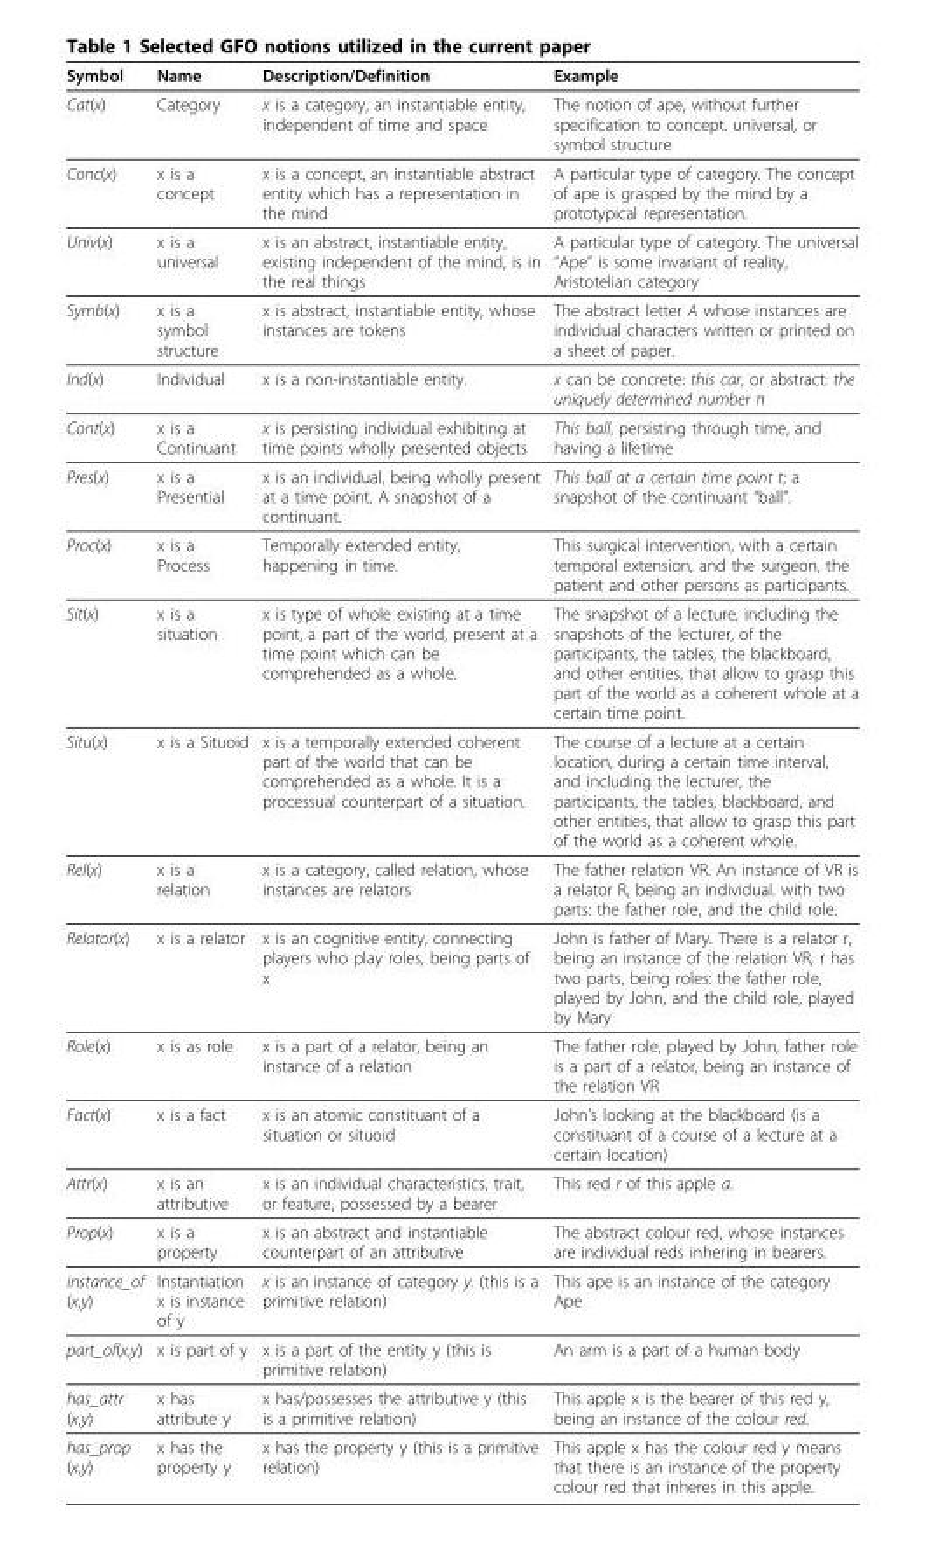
<table><thead><tr><td>Symbol</td><td>Name</td><td>Description/Definition</td><td>Example</td></tr></thead><tbody><tr><td>Cat(x)</td><td>Category</td><td>x is a category, an instantiable entity, independent of time and space</td><td>The notion of ape, without further specification to concept. universal, or symbol structure</td></tr><tr><td>Conc(x)</td><td>x is a concept</td><td>x is a concept, an instantiable abstract entity which has a representation in the mind</td><td>A particular type of category. The concept of ape is grasped by the mind by a prototypical representation.</td></tr><tr><td>Univ(x)</td><td>x is a universal</td><td>x is an abstract, instantiable entity, existing independent of the mind, is in the real things</td><td>A particular type of category. The universal “Ape” is some invariant of reality, Aristotelian category</td></tr><tr><td>Symb(x)</td><td>x is a symbol structure</td><td>x is abstract, instantiable entity, whose instances are tokens</td><td>The abstract letter A whose instances are individual characters written or printed on a sheet of paper.</td></tr><tr><td>Ind(x)</td><td>Individual</td><td>x is a non-instantiable entity.</td><td>x can be concrete: this car, or abstract: the uniquely determined number π</td></tr><tr><td>Cont(x)</td><td>x is a Continuant</td><td>x is persisting individual exhibiting at time points wholly presented objects</td><td>This ball, persisting through time, and having a lifetime</td></tr><tr><td>Pres(x)</td><td>x is a Presential</td><td>x is an individual, being wholly present at a time point. A snapshot of a continuant.</td><td>This ball at a certain time point t; a snapshot of the continuant “ball”.</td></tr><tr><td>Proc(x)</td><td>x is a Process</td><td>Temporally extended entity, happening in time.</td><td>This surgical intervention, with a certain temporal extension, and the surgeon, the patient and other persons as participants.</td></tr><tr><td>Sit(x)</td><td>x is a situation</td><td>x is type of whole existing at a time point, a part of the world, present at a time point which can be comprehended as a whole.</td><td>The snapshot of a lecture, including the snapshots of the lecturer, of the participants, the tables, the blackboard, and other entities, that allow to grasp this part of the world as a coherent whole at a certain time point.</td></tr><tr><td>Situ(x)</td><td>x is a Situoid</td><td>x is a temporally extended coherent part of the world that can be comprehended as a whole. It is a processual counterpart of a situation.</td><td>The course of a lecture at a certain location, during a certain time interval, and including the lecturer, the participants, the tables, blackboard, and other entities, that allow to grasp this part of the world as a coherent whole.</td></tr><tr><td>Rel(x)</td><td>x is a relation</td><td>x is a category, called relation, whose instances are relators</td><td>The father relation VR. An instance of VR is a relator R, being an individual. with two parts: the father role, and the child role.</td></tr><tr><td>Relator(x)</td><td>x is a relator</td><td>x is an cognitive entity, connecting players who play roles, being parts of x</td><td>John is father of Mary. There is a relator r, being an instance of the relation VR, r has two parts, being roles: the father role, played by John, and the child role, played by Mary</td></tr><tr><td>Role(x)</td><td>x is as role</td><td>x is a part of a relator, being an instance of a relation</td><td>The father role, played by John, father role is a part of a relator, being an instance of the relation VR</td></tr><tr><td>Fact(x)</td><td>x is a fact</td><td>x is an atomic constituant of a situation or situoid</td><td>John’s looking at the blackboard (is a constituant of a course of a lecture at a certain location)</td></tr><tr><td>Attr(x)</td><td>x is an attributive</td><td>x is an individual characteristics, trait, or feature, possessed by a bearer</td><td>This red r of this apple a.</td></tr><tr><td>Prop(x)</td><td>x is a property</td><td>x is an abstract and instantiable counterpart of an attributive</td><td>The abstract colour red, whose instances are individual reds inhering in bearers.</td></tr><tr><td>instance_of (x,y)</td><td>Instantiation x is instance of y</td><td>x is an instance of category y. (this is a primitive relation)</td><td>This ape is an instance of the category Ape</td></tr><tr><td>part_of(x,y)</td><td>x is part of y</td><td>x is a part of the entity y (this is primitive relation)</td><td>An arm is a part of a human body</td></tr><tr><td>has_attr (x,y)</td><td>x has attribute y</td><td>x has/possesses the attributive y (this is a primitive relation)</td><td>This apple x is the bearer of this red y, being an instance of the colour red.</td></tr><tr><td>has_prop (x,y)</td><td>x has the property y</td><td>x has the property y (this is a primitive relation)</td><td>This apple x has the colour red y means that there is an instance of the property colour red that inheres in this apple.</td></tr></tbody></table>